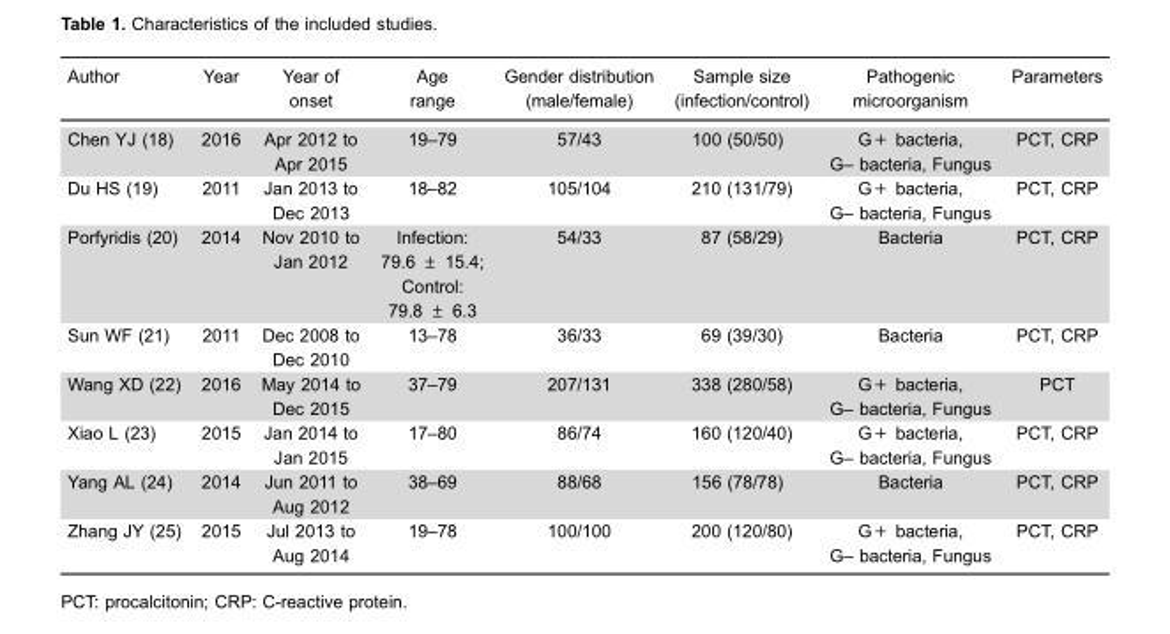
<table><thead><tr><td>Author</td><td>Year</td><td>Year of onset</td><td>Age range</td><td>Gender distribution (male/female)</td><td>Sample size (infection/control)</td><td>Pathogenic microorganism</td><td>Parameters</td></tr></thead><tbody><tr><td>Chen YJ (18)</td><td>2016</td><td>Apr 2012 to Apr 2015</td><td>19–79</td><td>57/43</td><td>100 (50/50)</td><td>G+ bacteria, G– bacteria, Fungus</td><td>PCT, CRP</td></tr><tr><td>Du HS (19)</td><td>2011</td><td>Jan 2013 to Dec 2013</td><td>18–82</td><td>105/104</td><td>210 (131/79)</td><td>G+ bacteria, G– bacteria, Fungus</td><td>PCT, CRP</td></tr><tr><td>Porfyridis (20)</td><td>2014</td><td>Nov 2010 to Jan 2012</td><td>Infection: 79.6 ± 15.4; Control: 79.8 ± 6.3</td><td>54/33</td><td>87 (58/29)</td><td>Bacteria</td><td>PCT, CRP</td></tr><tr><td>Sun WF (21)</td><td>2011</td><td>Dec 2008 to Dec 2010</td><td>13–78</td><td>36/33</td><td>69 (39/30)</td><td>Bacteria</td><td>PCT, CRP</td></tr><tr><td>Wang XD (22)</td><td>2016</td><td>May 2014 to Dec 2015</td><td>37–79</td><td>207/131</td><td>338 (280/58)</td><td>G+ bacteria, G– bacteria, Fungus</td><td>PCT</td></tr><tr><td>Xiao L (23)</td><td>2015</td><td>Jan 2014 to Jan 2015</td><td>17–80</td><td>86/74</td><td>160 (120/40)</td><td>G+ bacteria, G– bacteria, Fungus</td><td>PCT, CRP</td></tr><tr><td>Yang AL (24)</td><td>2014</td><td>Jun 2011 to Aug 2012</td><td>38–69</td><td>88/68</td><td>156 (78/78)</td><td>Bacteria</td><td>PCT, CRP</td></tr><tr><td>Zhang JY (25)</td><td>2015</td><td>Jul 2013 to Aug 2014</td><td>19–78</td><td>100/100</td><td>200 (120/80)</td><td>G+ bacteria, G– bacteria, Fungus</td><td>PCT, CRP</td></tr></tbody></table>